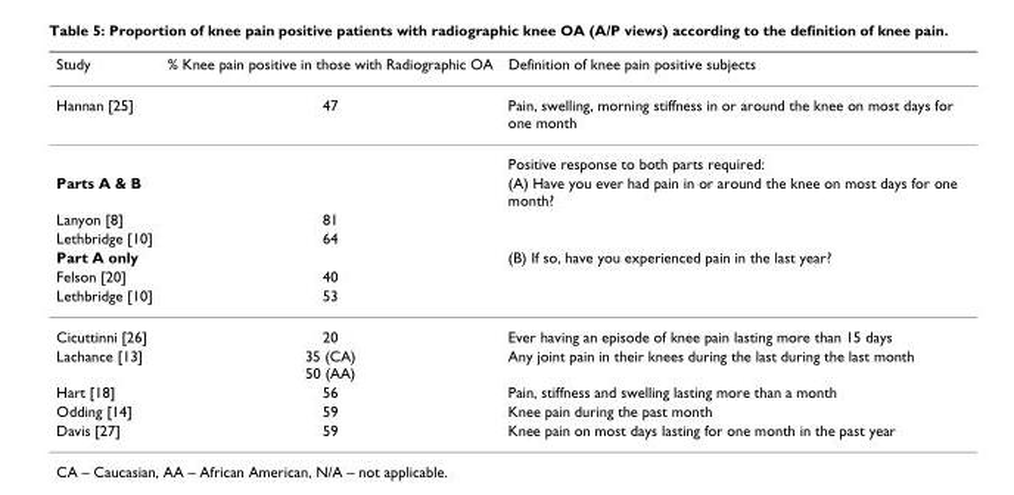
<table><thead><tr><td>Study</td><td>% Knee pain positive in those with Radiographic OA</td><td>Definition of knee pain positive subjects</td></tr></thead><tbody><tr><td rowspan="2">Hannan [25]</td><td>47</td><td>Pain, swelling, morning stiffness in or around the knee on most days for one month</td></tr><tr><td></td><td>Positive response to both parts required:</td></tr><tr><td>Parts A &amp; B</td><td></td><td>(A) Have you ever had pain in or around the knee on most days for one month?</td></tr><tr><td>Lanyon [8]</td><td>81</td><td></td></tr><tr><td>Lethbridge [10]</td><td>64</td><td></td></tr><tr><td>Part A only</td><td></td><td>(B) If so, have you experienced pain in the last year?</td></tr><tr><td>Felson [20]</td><td>40</td><td></td></tr><tr><td>Lethbridge [10]</td><td>53</td><td></td></tr><tr><td>Cicuttinni [26]</td><td>20</td><td>Ever having an episode of knee pain lasting more than 15 days</td></tr><tr><td>Lachance [13]</td><td>35 (CA) 50 (AA)</td><td>Any joint pain in their knees during the last during the last month</td></tr><tr><td>Hart [18]</td><td>56</td><td>Pain, stiffness and swelling lasting more than a month</td></tr><tr><td>Odding [14]</td><td>59</td><td>Knee pain during the past month</td></tr><tr><td>Davis [27]</td><td>59</td><td>Knee pain on most days lasting for one month in the past year</td></tr></tbody></table>